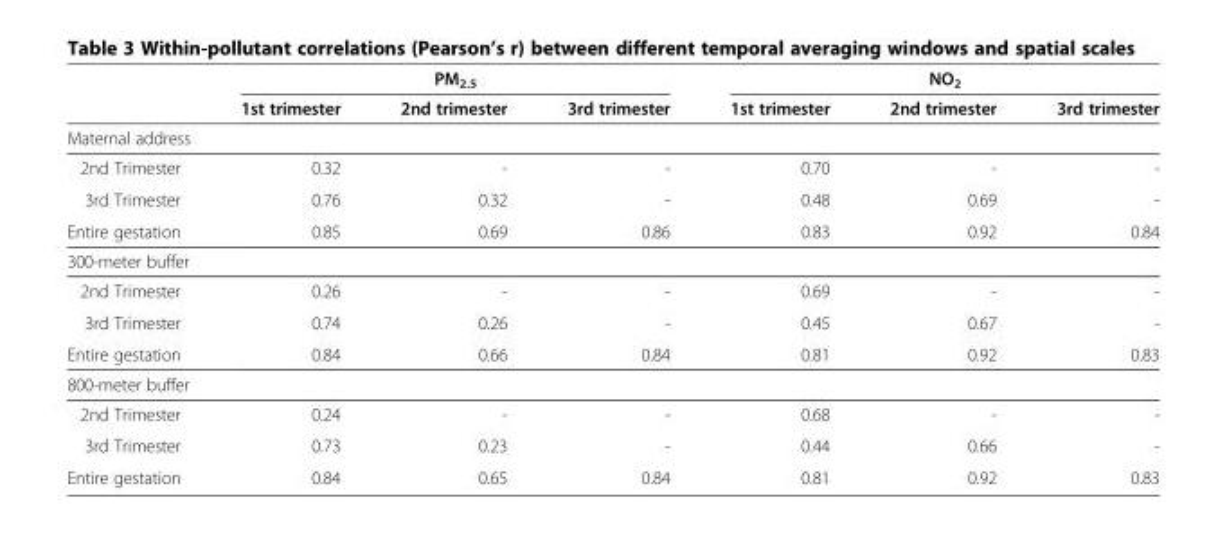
<table><thead><tr><td rowspan="2"></td><td colspan="3">PM<sub>2.5</sub></td><td colspan="3">NO<sub>2</sub></td></tr><tr><td>1st trimester</td><td>2nd trimester</td><td>3rd trimester</td><td>1st trimester</td><td>2nd trimester</td><td>3rd trimester</td></tr></thead><tbody><tr><td colspan="7">Maternal address</td></tr><tr><td>2nd Trimester</td><td>0.32</td><td>-</td><td>-</td><td>0.70</td><td>-</td><td>-</td></tr><tr><td>3rd Trimester</td><td>0.76</td><td>0.32</td><td>-</td><td>0.48</td><td>0.69</td><td>-</td></tr><tr><td>Entire gestation</td><td>0.85</td><td>0.69</td><td>0.86</td><td>0.83</td><td>0.92</td><td>0.84</td></tr><tr><td colspan="7">300-meter buffer</td></tr><tr><td>2nd Trimester</td><td>0.26</td><td>-</td><td>-</td><td>0.69</td><td>-</td><td>-</td></tr><tr><td>3rd Trimester</td><td>0.74</td><td>0.26</td><td>-</td><td>0.45</td><td>0.67</td><td>-</td></tr><tr><td>Entire gestation</td><td>0.84</td><td>0.66</td><td>0.84</td><td>0.81</td><td>0.92</td><td>0.83</td></tr><tr><td colspan="7">800-meter buffer</td></tr><tr><td>2nd Trimester</td><td>0.24</td><td>-</td><td>-</td><td>0.68</td><td>-</td><td>-</td></tr><tr><td>3rd Trimester</td><td>0.73</td><td>0.23</td><td>-</td><td>0.44</td><td>0.66</td><td>-</td></tr><tr><td>Entire gestation</td><td>0.84</td><td>0.65</td><td>0.84</td><td>0.81</td><td>0.92</td><td>0.83</td></tr></tbody></table>